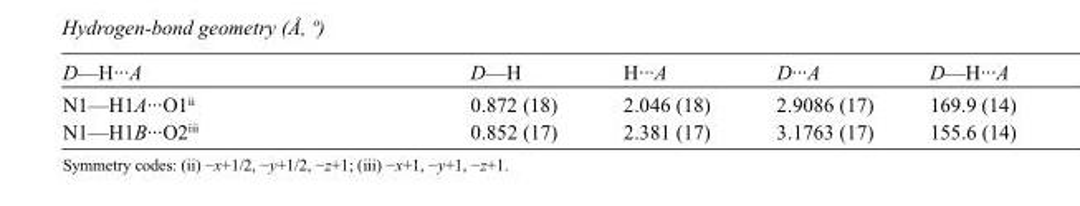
<table><tbody><tr><td>D—H···A</td><td>D—H</td><td>H···A</td><td>D···A</td><td>D—H···A</td></tr><tr><td>N1—H1A···O1<sup>ii</sup></td><td>0.872 (18)</td><td>2.046 (18)</td><td>2.9086 (17)</td><td>169.9 (14)</td></tr><tr><td>N1—H1B···O2<sup>iii</sup></td><td>0.852 (17)</td><td>2.381 (17)</td><td>3.1763 (17)</td><td>155.6 (14)</td></tr></tbody></table>